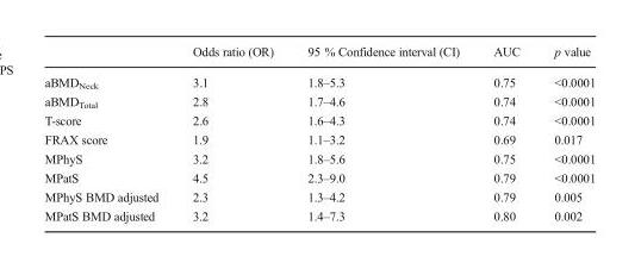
<table><thead><tr><td></td><td>Odds ratio (OR)</td><td>95 % Confidence interval (CI)</td><td>AUC</td><td>p value</td></tr></thead><tbody><tr><td>aBMD<sub>Neck</sub></td><td>3.1</td><td>1.8–5.3</td><td>0.75</td><td>&lt;0.0001</td></tr><tr><td>aBMD<sub>Total</sub></td><td>2.8</td><td>1.7–4.6</td><td>0.74</td><td>&lt;0.0001</td></tr><tr><td>T-score</td><td>2.6</td><td>1.6–4.3</td><td>0.74</td><td>&lt;0.0001</td></tr><tr><td>FRAX score</td><td>1.9</td><td>1.1–3.2</td><td>0.69</td><td>0.017</td></tr><tr><td>MPhyS</td><td>3.2</td><td>1.8–5.6</td><td>0.75</td><td>&lt;0.0001</td></tr><tr><td>MPatS</td><td>4.5</td><td>2.3–9.0</td><td>0.79</td><td>&lt;0.0001</td></tr><tr><td>MPhyS BMD adjusted</td><td>2.3</td><td>1.3–4.2</td><td>0.79</td><td>0.005</td></tr><tr><td>MPatS BMD adjusted</td><td>3.2</td><td>1.4–7.3</td><td>0.80</td><td>0.002</td></tr></tbody></table>